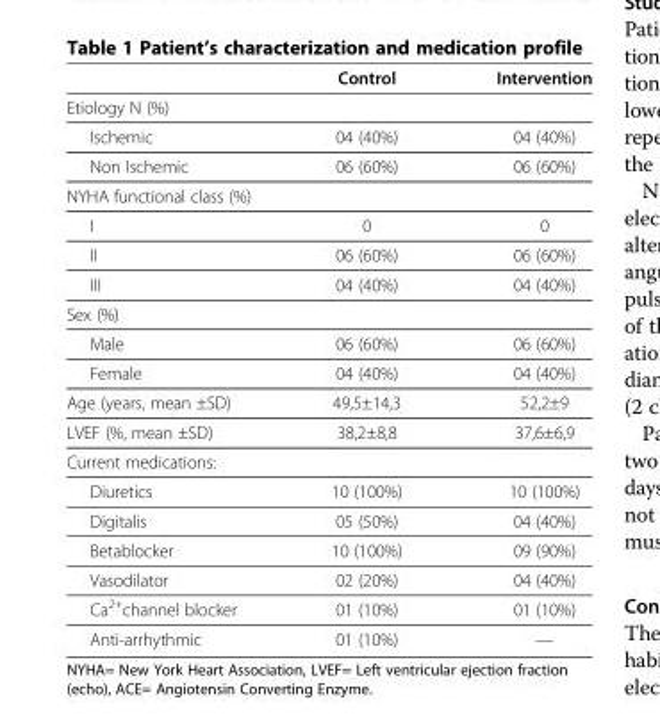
<table><thead><tr><td></td><td>Control</td><td>Intervention</td></tr></thead><tbody><tr><td colspan="3">Etiology N (%)</td></tr><tr><td>Ischemic</td><td>04 (40%)</td><td>04 (40%)</td></tr><tr><td>Non Ischemic</td><td>06 (60%)</td><td>06 (60%)</td></tr><tr><td colspan="3">NYHA functional class (%)</td></tr><tr><td>I</td><td>0</td><td>0</td></tr><tr><td>II</td><td>06 (60%)</td><td>06 (60%)</td></tr><tr><td>III</td><td>04 (40%)</td><td>04 (40%)</td></tr><tr><td colspan="3">Sex (%)</td></tr><tr><td>Male</td><td>06 (60%)</td><td>06 (60%)</td></tr><tr><td>Female</td><td>04 (40%)</td><td>04 (40%)</td></tr><tr><td>Age (years, mean ±SD)</td><td>49,5±14,3</td><td>52,2±9</td></tr><tr><td>LVEF (%, mean ±SD)</td><td>38,2±8,8</td><td>37,6±6,9</td></tr><tr><td colspan="3">Current medications:</td></tr><tr><td>Diuretics</td><td>10 (100%)</td><td>10 (100%)</td></tr><tr><td>Digitalis</td><td>05 (50%)</td><td>04 (40%)</td></tr><tr><td>Betablocker</td><td>10 (100%)</td><td>09 (90%)</td></tr><tr><td>Vasodilator</td><td>02 (20%)</td><td>04 (40%)</td></tr><tr><td>Ca<sup>2+</sup>channel blocker</td><td>01 (10%)</td><td>01 (10%)</td></tr><tr><td>Anti-arrhythmic</td><td>01 (10%)</td><td>—</td></tr></tbody></table>